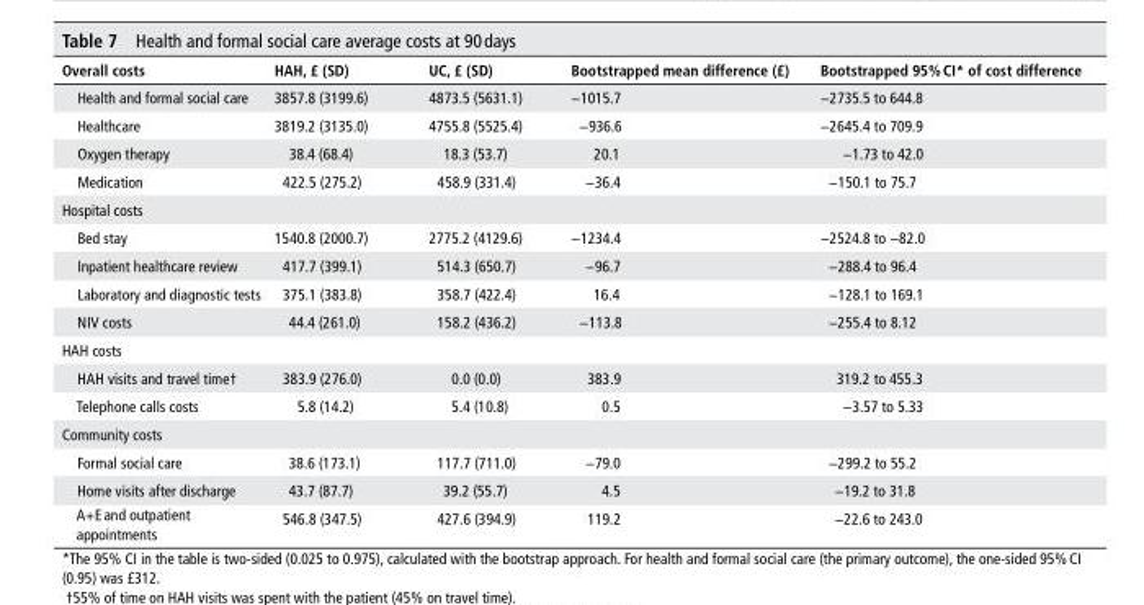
<table><thead><tr><td>overall costs</td><td>hAh, £ (sd)</td><td>uC, £ (sd)</td><td>bootstrapped mean difference (£)</td><td>bootstrapped 95% CI* of cost difference</td></tr></thead><tbody><tr><td>Health and formal social care</td><td>3857.8 (3199.6)</td><td>4873.5 (5631.1)</td><td>−1015.7</td><td>−2735.5 to 644.8</td></tr><tr><td>Healthcare</td><td>3819.2 (3135.0)</td><td>4755.8 (5525.4)</td><td>−936.6</td><td>−2645.4 to 709.9</td></tr><tr><td>Oxygen therapy</td><td>38.4 (68.4)</td><td>18.3 (53.7)</td><td>20.1</td><td>−1.73 to 42.0</td></tr><tr><td>Medication</td><td>422.5 (275.2)</td><td>458.9 (331.4)</td><td>−36.4</td><td>−150.1 to 75.7</td></tr><tr><td colspan="5">Hospital costs</td></tr><tr><td>Bed stay</td><td>1540.8 (2000.7)</td><td>2775.2 (4129.6)</td><td>−1234.4</td><td>−2524.8 to −82.0</td></tr><tr><td>Inpatient healthcare review</td><td>417.7 (399.1)</td><td>514.3 (650.7)</td><td>−96.7</td><td>−288.4 to 96.4</td></tr><tr><td>Laboratory and diagnostic tests</td><td>375.1 (383.8)</td><td>358.7 (422.4)</td><td>16.4</td><td>−128.1 to 169.1</td></tr><tr><td>NIV costs</td><td>44.4 (261.0)</td><td>158.2 (436.2)</td><td>−113.8</td><td>−255.4 to 8.12</td></tr><tr><td colspan="5">HAH costs</td></tr><tr><td>HAH visits and travel time†</td><td>383.9 (276.0)</td><td>0.0 (0.0)</td><td>383.9</td><td>319.2 to 455.3</td></tr><tr><td>Telephone calls costs</td><td>5.8 (14.2)</td><td>5.4 (10.8)</td><td>0.5</td><td>−3.57 to 5.33</td></tr><tr><td colspan="5">Community costs</td></tr><tr><td>Formal social care</td><td>38.6 (173.1)</td><td>117.7 (711.0)</td><td>−79.0</td><td>−299.2 to 55.2</td></tr><tr><td>Home visits after discharge</td><td>43.7 (87.7)</td><td>39.2 (55.7)</td><td>4.5</td><td>−19.2 to 31.8</td></tr><tr><td>A+E and outpatient appointments</td><td>546.8 (347.5)</td><td>427.6 (394.9)</td><td>119.2</td><td>−22.6 to 243.0</td></tr></tbody></table>